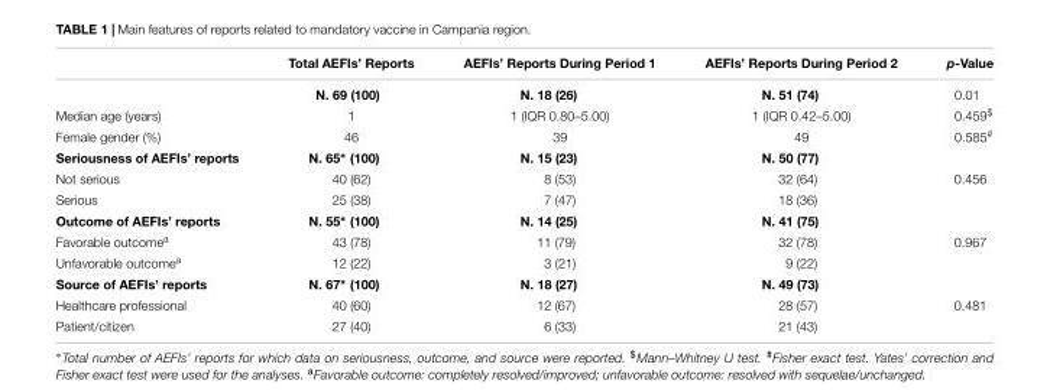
<table><thead><tr><td></td><td>Total AEFIs’ Reports</td><td>AEFIs’ Reports During Period 1</td><td>AEFIs’ Reports During Period 2</td><td>p-Value</td></tr></thead><tbody><tr><td></td><td>N. 69 (100)</td><td>N. 18 (26)</td><td>N. 51 (74)</td><td>0.01</td></tr><tr><td>Median age (years)</td><td>1</td><td>1 (IQR 0.80–5.00)</td><td>1 (IQR 0.42–5.00)</td><td>0.459<sup>$</sup></td></tr><tr><td>Female gender (%)</td><td>46</td><td>39</td><td>49</td><td>0.585<sup>#</sup></td></tr><tr><td>Seriousness of AEFIs’ reports</td><td>N. 65∗ (100)</td><td>N. 15 (23)</td><td>N. 50 (77)</td><td></td></tr><tr><td>Not serious</td><td>40 (62)</td><td>8 (53)</td><td>32 (64)</td><td>0.456</td></tr><tr><td>Serious</td><td>25 (38)</td><td>7 (47)</td><td>18 (36)</td><td></td></tr><tr><td>Outcome of AEFIs’ reports</td><td>N. 55∗ (100)</td><td>N. 14 (25)</td><td>N. 41 (75)</td><td></td></tr><tr><td>Favorable outcome<sup>a</sup></td><td>43 (78)</td><td>11 (79)</td><td>32 (78)</td><td>0.967</td></tr><tr><td>Unfavorable outcome<sup>a</sup></td><td>12 (22)</td><td>3 (21)</td><td>9 (22)</td><td></td></tr><tr><td>Source of AEFIs’ reports</td><td>N. 67∗ (100)</td><td>N. 18 (27)</td><td>N. 49 (73)</td><td></td></tr><tr><td>Healthcare professional</td><td>40 (60)</td><td>12 (67)</td><td>28 (57)</td><td>0.481</td></tr><tr><td>Patient/citizen</td><td>27 (40)</td><td>6 (33)</td><td>21 (43)</td><td></td></tr></tbody></table>